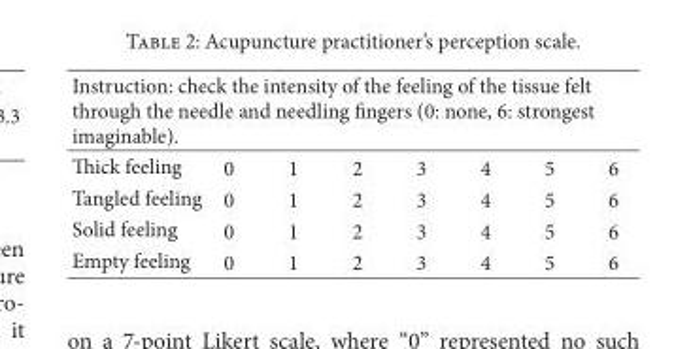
<table><thead><tr><td colspan="8">Instruction: check the intensity of the feeling of the tissue felt through the needle and needling fingers (0: none, 6: strongest imaginable).</td></tr><tr><td>Thick feeling</td><td>0</td><td>1</td><td>2</td><td>3</td><td>4</td><td>5</td><td>6</td></tr></thead><tbody><tr><td>Tangled feeling</td><td>0</td><td>1</td><td>2</td><td>3</td><td>4</td><td>5</td><td>6</td></tr><tr><td>Solid feeling</td><td>0</td><td>1</td><td>2</td><td>3</td><td>4</td><td>5</td><td>6</td></tr><tr><td>Empty feeling</td><td>0</td><td>1</td><td>2</td><td>3</td><td>4</td><td>5</td><td>6</td></tr></tbody></table>